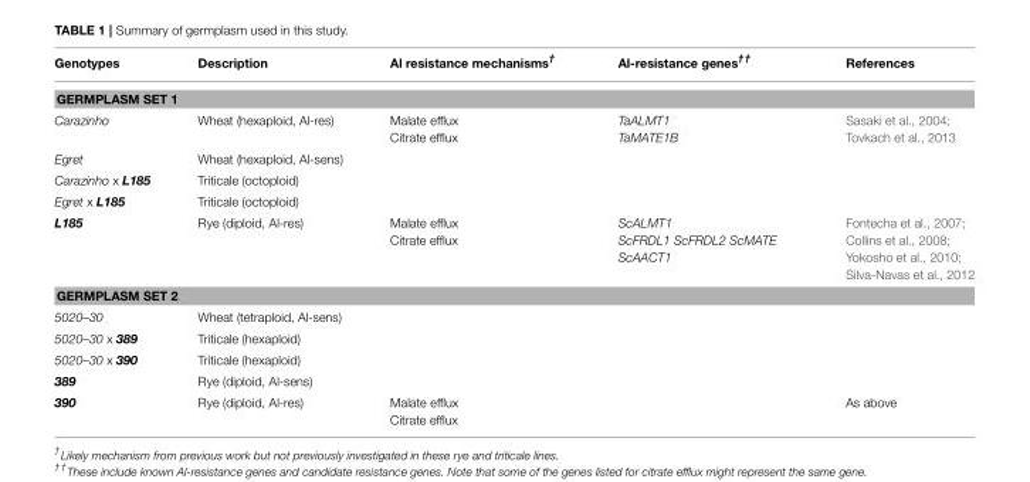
<table><thead><tr><td>Genotypes</td><td>Description</td><td>Al resistance mechanisms<sup>†</sup></td><td>Al-resistance genes<sup>††</sup></td><td>References</td></tr></thead><tbody><tr><td colspan="5">GERMPLASM SET 1</td></tr><tr><td>Carazinho</td><td>Wheat (hexaploid, Al-res)</td><td>Malate efflux Citrate efflux</td><td>TaALMT1 TaMATE1B</td><td>Sasaki et al., 2004; Tovkach et al., 2013</td></tr><tr><td>Egret</td><td>Wheat (hexaploid, Al-sens)</td><td></td><td></td><td></td></tr><tr><td>Carazinho x L185</td><td>Triticale (octoploid)</td><td></td><td></td><td></td></tr><tr><td>Egret x L185</td><td>Triticale (octoploid)</td><td></td><td></td><td></td></tr><tr><td>L185</td><td>Rye (diploid, Al-res)</td><td>Malate efflux Citrate efflux</td><td>ScALMT1 ScFRDL1 ScFRDL2 ScMATE ScAACT1</td><td>Fontecha et al., 2007; Collins et al., 2008; Yokosho et al., 2010; Silva-Navas et al., 2012</td></tr><tr><td colspan="5">GERMPLASM SET 2</td></tr><tr><td>5020–30</td><td>Wheat (tetraploid, Al-sens)</td><td></td><td></td><td></td></tr><tr><td>5020–30 x 389</td><td>Triticale (hexaploid)</td><td></td><td></td><td></td></tr><tr><td>5020–30 x 390</td><td>Triticale (hexaploid)</td><td></td><td></td><td></td></tr><tr><td>389</td><td>Rye (diploid, Al-sens)</td><td></td><td></td><td></td></tr><tr><td>390</td><td>Rye (diploid, Al-res)</td><td>Malate efflux Citrate efflux</td><td></td><td>As above</td></tr></tbody></table>